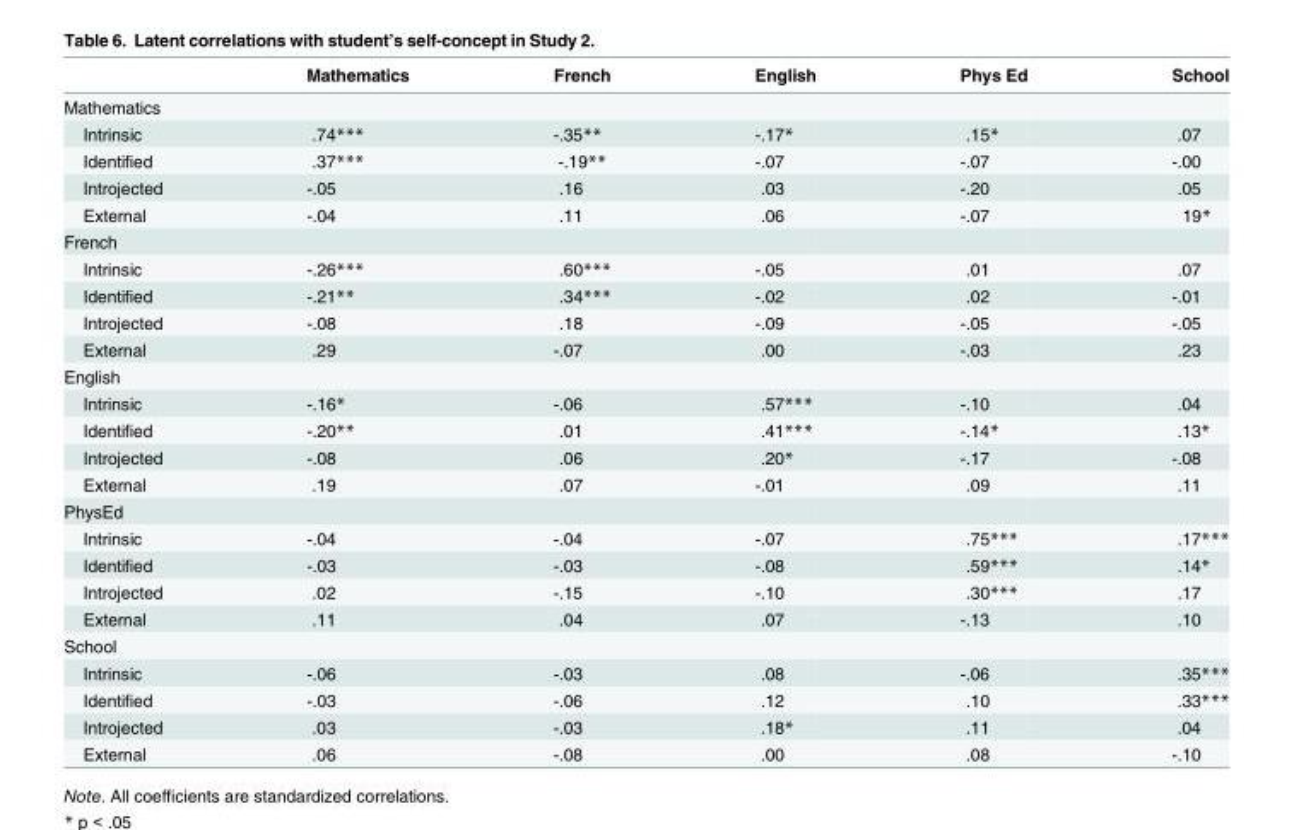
<table><thead><tr><td></td><td>Mathematics</td><td>French</td><td>English</td><td>Phys Ed</td><td>School</td></tr></thead><tbody><tr><td colspan="6">Mathematics</td></tr><tr><td>Intrinsic</td><td>.74***</td><td>-.35**</td><td>-.17*</td><td>.15*</td><td>.07</td></tr><tr><td>Identified</td><td>.37***</td><td>-.19**</td><td>-.07</td><td>-.07</td><td>-.00</td></tr><tr><td>Introjected</td><td>-.05</td><td>.16</td><td>.03</td><td>-.20</td><td>.05</td></tr><tr><td>External</td><td>-.04</td><td>.11</td><td>.06</td><td>-.07</td><td>19*</td></tr><tr><td colspan="6">French</td></tr><tr><td>Intrinsic</td><td>-.26***</td><td>.60***</td><td>-.05</td><td>.01</td><td>.07</td></tr><tr><td>Identified</td><td>-.21**</td><td>.34***</td><td>-.02</td><td>.02</td><td>-.01</td></tr><tr><td>Introjected</td><td>-.08</td><td>.18</td><td>-.09</td><td>-.05</td><td>-.05</td></tr><tr><td>External</td><td>.29</td><td>-.07</td><td>.00</td><td>-.03</td><td>.23</td></tr><tr><td colspan="6">English</td></tr><tr><td>Intrinsic</td><td>-.16*</td><td>-.06</td><td>.57***</td><td>-.10</td><td>.04</td></tr><tr><td>Identified</td><td>-.20**</td><td>.01</td><td>.41***</td><td>-.14*</td><td>.13*</td></tr><tr><td>Introjected</td><td>-.08</td><td>.06</td><td>.20*</td><td>-.17</td><td>-.08</td></tr><tr><td>External</td><td>.19</td><td>.07</td><td>-.01</td><td>.09</td><td>.11</td></tr><tr><td colspan="6">PhysEd</td></tr><tr><td>Intrinsic</td><td>-.04</td><td>-.04</td><td>-.07</td><td>.75***</td><td>.17***</td></tr><tr><td>Identified</td><td>-.03</td><td>-.03</td><td>-.08</td><td>.59***</td><td>.14*</td></tr><tr><td>Introjected</td><td>.02</td><td>-.15</td><td>-.10</td><td>.30***</td><td>.17</td></tr><tr><td>External</td><td>.11</td><td>.04</td><td>.07</td><td>-.13</td><td>.10</td></tr><tr><td colspan="6">School</td></tr><tr><td>Intrinsic</td><td>-.06</td><td>-.03</td><td>.08</td><td>-.06</td><td>.35***</td></tr><tr><td>Identified</td><td>-.03</td><td>-.06</td><td>.12</td><td>.10</td><td>.33***</td></tr><tr><td>Introjected</td><td>.03</td><td>-.03</td><td>.18*</td><td>.11</td><td>.04</td></tr><tr><td>External</td><td>.06</td><td>-.08</td><td>.00</td><td>.08</td><td>-.10</td></tr></tbody></table>